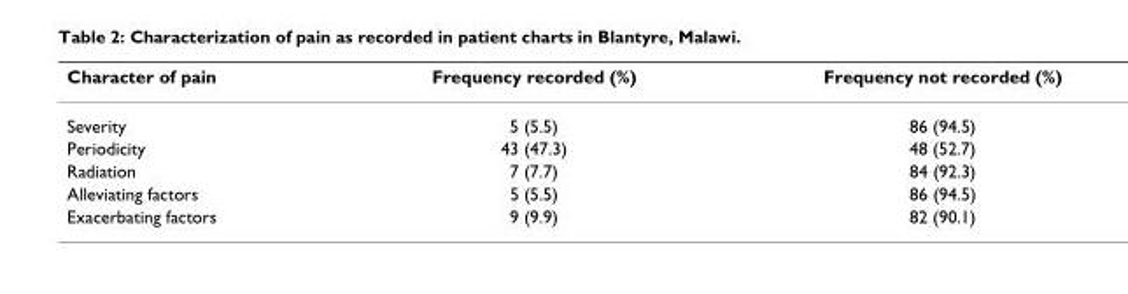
<table><thead><tr><td>Character of pain</td><td>Frequency recorded (%)</td><td>Frequency not recorded (%)</td></tr></thead><tbody><tr><td>Severity</td><td>5 (5.5)</td><td>86 (94.5)</td></tr><tr><td>Periodicity</td><td>43 (47.3)</td><td>48 (52.7)</td></tr><tr><td>Radiation</td><td>7 (7.7)</td><td>84 (92.3)</td></tr><tr><td>Alleviating factors</td><td>5 (5.5)</td><td>86 (94.5)</td></tr><tr><td>Exacerbating factors</td><td>9 (9.9)</td><td>82 (90.1)</td></tr></tbody></table>